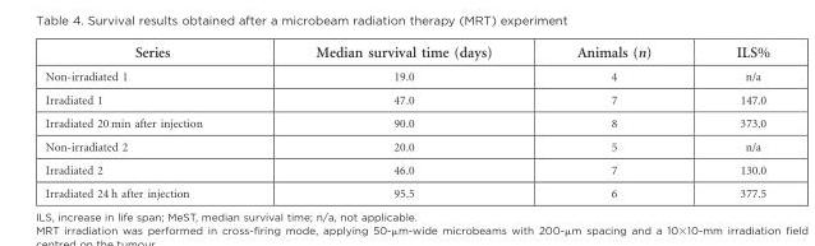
<table><thead><tr><td>Series</td><td>Median survival time (days)</td><td>Animals (n)</td><td>ILS%</td></tr></thead><tbody><tr><td>Non-irradiated 1</td><td>19.0</td><td>4</td><td>n/a</td></tr><tr><td>Irradiated 1</td><td>47.0</td><td>7</td><td>147.0</td></tr><tr><td>Irradiated 20 min after injection</td><td>90.0</td><td>8</td><td>373.0</td></tr><tr><td>Non-irradiated 2</td><td>20.0</td><td>5</td><td>n/a</td></tr><tr><td>Irradiated 2</td><td>46.0</td><td>7</td><td>130.0</td></tr><tr><td>Irradiated 24 h after injection</td><td>95.5</td><td>6</td><td>377.5</td></tr></tbody></table>